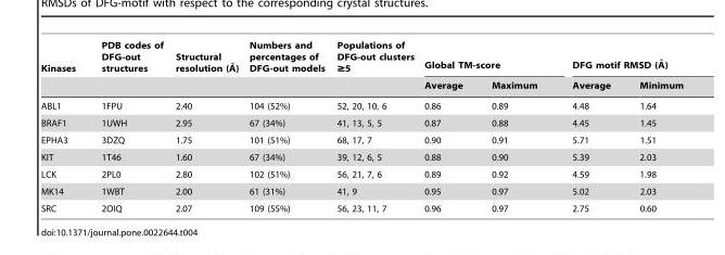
<table><thead><tr><td rowspan="2">Kinases</td><td rowspan="2">PDB codes of DFG-out structures</td><td rowspan="2">Structural resolution (A˚ )</td><td rowspan="2">Numbers and percentages of DFG-out models</td><td rowspan="2">Populations of DFG-out clusters ≥5</td><td colspan="2">Global TM-score</td><td colspan="2">DFG motif RMSD (A˚ )</td></tr><tr><td>Average</td><td>Maximum</td><td>Average</td><td>Minimum</td></tr></thead><tbody><tr><td>ABL1</td><td>1FPU</td><td>2.40</td><td>104 (52%)</td><td>52, 20, 10, 6</td><td>0.86</td><td>0.89</td><td>4.48</td><td>1.64</td></tr><tr><td>BRAF1</td><td>1UWH</td><td>2.95</td><td>67 (34%)</td><td>41, 13, 5, 5</td><td>0.87</td><td>0.88</td><td>4.45</td><td>1.45</td></tr><tr><td>EPHA3</td><td>3DZQ</td><td>1.75</td><td>101 (51%)</td><td>68, 17, 7</td><td>0.90</td><td>0.91</td><td>5.71</td><td>1.51</td></tr><tr><td>KIT</td><td>1T46</td><td>1.60</td><td>67 (34%)</td><td>39, 12, 6, 5</td><td>0.88</td><td>0.90</td><td>5.39</td><td>2.03</td></tr><tr><td>LCK</td><td>2PL0</td><td>2.80</td><td>102 (51%)</td><td>56, 21, 7, 6</td><td>0.89</td><td>0.92</td><td>4.59</td><td>1.98</td></tr><tr><td>MK14</td><td>1WBT</td><td>2.00</td><td>61 (31%)</td><td>41, 9</td><td>0.95</td><td>0.97</td><td>5.02</td><td>2.03</td></tr><tr><td>SRC</td><td>2OIQ</td><td>2.07</td><td>109 (55%)</td><td>56, 23, 11, 7</td><td>0.96</td><td>0.97</td><td>2.75</td><td>0.60</td></tr></tbody></table>